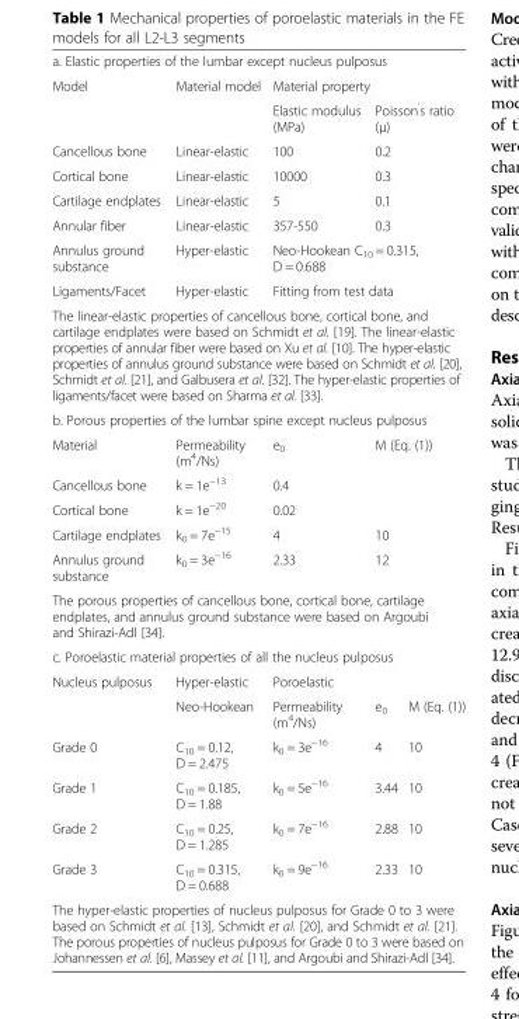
<table><tbody><tr><td colspan="5">a. Elastic properties of the lumbar except nucleus pulposus</td></tr><tr><td rowspan="2">Model</td><td>Material model</td><td colspan="3">Material property</td></tr><tr><td></td><td>Elastic modulus (MPa)</td><td colspan="2">Poisson<sup>’</sup>s ratio (μ)</td></tr><tr><td>Cancellous bone</td><td>Linear-elastic</td><td>100</td><td colspan="2">0.2</td></tr><tr><td>Cortical bone</td><td>Linear-elastic</td><td>10000</td><td colspan="2">0.3</td></tr><tr><td>Cartilage endplates</td><td>Linear-elastic</td><td>5</td><td colspan="2">0.1</td></tr><tr><td>Annular fiber</td><td>Linear-elastic</td><td>357-550</td><td colspan="2">0.3</td></tr><tr><td>Annulus ground substance</td><td>Hyper-elastic</td><td colspan="3">Neo-Hookean C<sub>10</sub> = 0.315, D = 0.688</td></tr><tr><td>Ligaments/Facet</td><td>Hyper-elastic</td><td colspan="3">Fitting from test data</td></tr><tr><td colspan="5">The linear-elastic properties of cancellous bone, cortical bone, and cartilage endplates were based on Schmidt et al. [19]. The linear-elastic properties of annular fiber were based on Xu et al. [10]. The hyper-elastic properties of annulus ground substance were based on Schmidt et al. [20], Schmidt et al. [21], and Galbusera et al. [32]. The hyper-elastic properties of ligaments/facet were based on Sharma et al. [33].</td></tr><tr><td colspan="5">b. Porous properties of the lumbar spine except nucleus pulposus</td></tr><tr><td>Material</td><td>Permeability (m<sup>4</sup>/Ns)</td><td>e<sub>0</sub></td><td colspan="2">M (Eq. (1))</td></tr><tr><td>Cancellous bone</td><td>k = 1e<sup>−13</sup></td><td>0.4</td><td colspan="2"></td></tr><tr><td>Cortical bone</td><td>k = 1e<sup>−20</sup></td><td>0.02</td><td colspan="2"></td></tr><tr><td>Cartilage endplates</td><td>k<sub>0</sub> = 7e<sup>−15</sup></td><td>4</td><td colspan="2">10</td></tr><tr><td>Annulus ground substance</td><td>k<sub>0</sub> = 3e<sup>−16</sup></td><td>2.33</td><td colspan="2">12</td></tr><tr><td colspan="5">The porous properties of cancellous bone, cortical bone, cartilage endplates, and annulus ground substance were based on Argoubi and Shirazi-Adl [34].</td></tr><tr><td colspan="5">c. Poroelastic material properties of all the nucleus pulposus</td></tr><tr><td rowspan="2">Nucleus pulposus</td><td>Hyper-elastic</td><td>Poroelastic</td><td></td><td></td></tr><tr><td>Neo-Hookean</td><td>Permeability (m<sup>4</sup>/Ns)</td><td>e<sub>0</sub></td><td>M (Eq. (1))</td></tr><tr><td>Grade 0</td><td>C<sub>10</sub> = 0.12, D = 2.475</td><td>k<sub>0</sub> = 3e<sup>−16</sup></td><td>4</td><td>10</td></tr><tr><td>Grade 1</td><td>C<sub>10</sub> = 0.185, D = 1.88</td><td>k<sub>0</sub> = 5e<sup>−16</sup></td><td>3.44</td><td>10</td></tr><tr><td>Grade 2</td><td>C<sub>10</sub> = 0.25, D = 1.285</td><td>k<sub>0</sub> = 7e<sup>−16</sup></td><td>2.88</td><td>10</td></tr><tr><td>Grade 3</td><td>C<sub>10</sub> = 0.315, D = 0.688</td><td>k<sub>0</sub> = 9e<sup>−16</sup></td><td>2.33</td><td>10</td></tr><tr><td colspan="5">The hyper-elastic properties of nucleus pulposus for Grade 0 to 3 were based on Schmidt et al. [13], Schmidt et al. [20], and Schmidt et al. [21]. The porous properties of nucleus pulposus for Grade 0 to 3 were based on Johannessen et al. [6], Massey et al. [11], and Argoubi and Shirazi-Adl [34].</td></tr></tbody></table>